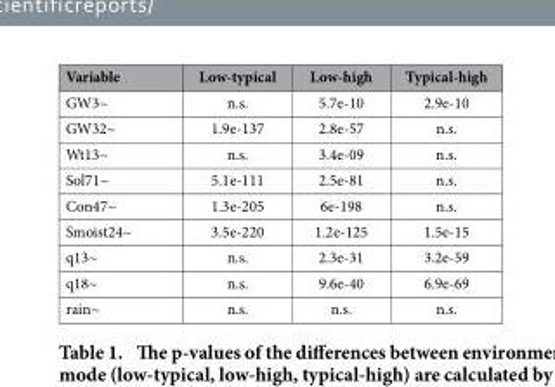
<table><thead><tr><td>Variable</td><td>Low-typical</td><td>Low-high</td><td>Typical-high</td></tr></thead><tbody><tr><td>GW3~</td><td>n.s.</td><td>5.7e-10</td><td>2.9e-10</td></tr><tr><td>GW32~</td><td>1.9e-137</td><td>2.8e-57</td><td>n.s.</td></tr><tr><td>Wt13~</td><td>n.s.</td><td>3.4e-09</td><td>n.s.</td></tr><tr><td>Sol71~</td><td>5.1e-111</td><td>2.5e-81</td><td>n.s.</td></tr><tr><td>Con47~</td><td>1.3e-205</td><td>6e-198</td><td>n.s.</td></tr><tr><td>Smoist24~</td><td>3.5e-220</td><td>1.2e-125</td><td>1.5e-15</td></tr><tr><td>q13~</td><td>n.s.</td><td>2.3e-31</td><td>3.2e-59</td></tr><tr><td>q18~</td><td>n.s.</td><td>9.6e-40</td><td>6.9e-69</td></tr><tr><td>rain~</td><td>n.s.</td><td>n.s.</td><td>n.s.</td></tr></tbody></table>